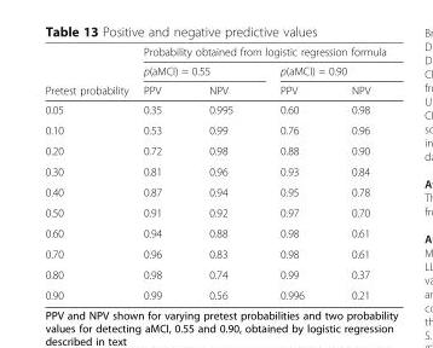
<table><thead><tr><td rowspan="3">Pretest probability</td><td colspan="4">Probability obtained from logistic regression formula</td></tr><tr><td colspan="2">p(aMCI) = 0.55</td><td colspan="2">p(aMCI) = 0.90</td></tr><tr><td>PPV</td><td>NPV</td><td>PPV</td><td>NPV</td></tr></thead><tbody><tr><td>0.05</td><td>0.35</td><td>0.995</td><td>0.60</td><td>0.98</td></tr><tr><td>0.10</td><td>0.53</td><td>0.99</td><td>0.76</td><td>0.96</td></tr><tr><td>0.20</td><td>0.72</td><td>0.98</td><td>0.88</td><td>0.90</td></tr><tr><td>0.30</td><td>0.81</td><td>0.96</td><td>0.93</td><td>0.84</td></tr><tr><td>0.40</td><td>0.87</td><td>0.94</td><td>0.95</td><td>0.78</td></tr><tr><td>0.50</td><td>0.91</td><td>0.92</td><td>0.97</td><td>0.70</td></tr><tr><td>0.60</td><td>0.94</td><td>0.88</td><td>0.98</td><td>0.61</td></tr><tr><td>0.70</td><td>0.96</td><td>0.83</td><td>0.98</td><td>0.61</td></tr><tr><td>0.80</td><td>0.98</td><td>0.74</td><td>0.99</td><td>0.37</td></tr><tr><td>0.90</td><td>0.99</td><td>0.56</td><td>0.996</td><td>0.21</td></tr></tbody></table>